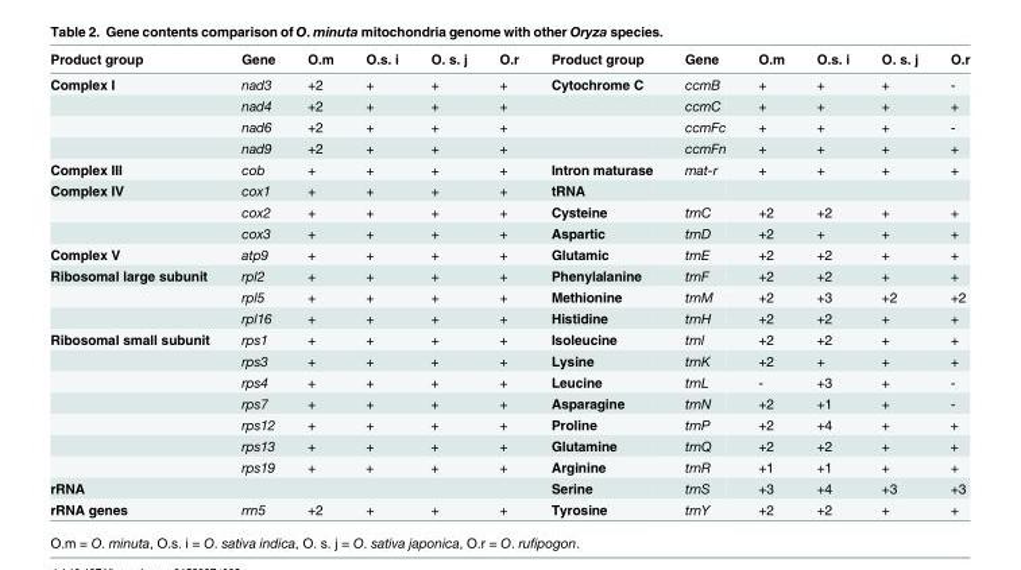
<table><thead><tr><td>Product group</td><td>Gene</td><td>O.m</td><td>O.s. i</td><td>O. s. j</td><td>O.r</td><td>Product group</td><td>Gene</td><td>O.m</td><td>O.s. i</td><td>O. s. j</td><td>O.r</td></tr></thead><tbody><tr><td rowspan="4">Complex I</td><td>nad3</td><td>+2</td><td>+</td><td>+</td><td>+</td><td>Cytochrome C</td><td>ccmB</td><td>+</td><td>+</td><td>+</td><td>-</td></tr><tr><td>nad4</td><td>+2</td><td>+</td><td>+</td><td>+</td><td></td><td>ccmC</td><td>+</td><td>+</td><td>+</td><td>+</td></tr><tr><td>nad6</td><td>+2</td><td>+</td><td>+</td><td>+</td><td></td><td>ccmFc</td><td>+</td><td>+</td><td>+</td><td>-</td></tr><tr><td>nad9</td><td>+2</td><td>+</td><td>+</td><td>+</td><td></td><td>ccmFn</td><td>+</td><td>+</td><td>+</td><td>+</td></tr><tr><td>Complex III</td><td>cob</td><td>+</td><td>+</td><td>+</td><td>+</td><td>Intron maturase</td><td>mat-r</td><td>+</td><td>+</td><td>+</td><td>+</td></tr><tr><td rowspan="3">Complex IV</td><td>cox1</td><td>+</td><td>+</td><td>+</td><td>+</td><td>tRNA</td><td></td><td></td><td></td><td></td><td></td></tr><tr><td>cox2</td><td>+</td><td>+</td><td>+</td><td>+</td><td>Cysteine</td><td>trnC</td><td>+2</td><td>+2</td><td>+</td><td>+</td></tr><tr><td>cox3</td><td>+</td><td>+</td><td>+</td><td>+</td><td>Aspartic</td><td>trnD</td><td>+2</td><td>+</td><td>+</td><td>+</td></tr><tr><td>Complex V</td><td>atp9</td><td>+</td><td>+</td><td>+</td><td>+</td><td>Glutamic</td><td>trnE</td><td>+2</td><td>+2</td><td>+</td><td>+</td></tr><tr><td rowspan="3">Ribosomal large subunit</td><td>rpl2</td><td>+</td><td>+</td><td>+</td><td>+</td><td>Phenylalanine</td><td>trnF</td><td>+2</td><td>+2</td><td>+</td><td>+</td></tr><tr><td>rpl5</td><td>+</td><td>+</td><td>+</td><td>+</td><td>Methionine</td><td>trnM</td><td>+2</td><td>+3</td><td>+2</td><td>+2</td></tr><tr><td>rpl16</td><td>+</td><td>+</td><td>+</td><td>+</td><td>Histidine</td><td>trnH</td><td>+2</td><td>+2</td><td>+</td><td>+</td></tr><tr><td rowspan="7">Ribosomal small subunit</td><td>rps1</td><td>+</td><td>+</td><td>+</td><td>+</td><td>Isoleucine</td><td>trnl</td><td>+2</td><td>+2</td><td>+</td><td>+</td></tr><tr><td>rps3</td><td>+</td><td>+</td><td>+</td><td>+</td><td>Lysine</td><td>trnK</td><td>+2</td><td>+</td><td>+</td><td>+</td></tr><tr><td>rps4</td><td>+</td><td>+</td><td>+</td><td>+</td><td>Leucine</td><td>trnL</td><td>-</td><td>+3</td><td>+</td><td>-</td></tr><tr><td>rps7</td><td>+</td><td>+</td><td>+</td><td>+</td><td>Asparagine</td><td>trnN</td><td>+2</td><td>+1</td><td>+</td><td>-</td></tr><tr><td>rps12</td><td>+</td><td>+</td><td>+</td><td>+</td><td>Proline</td><td>trnP</td><td>+2</td><td>+4</td><td>+</td><td>+</td></tr><tr><td>rps13</td><td>+</td><td>+</td><td>+</td><td>+</td><td>Glutamine</td><td>trnQ</td><td>+2</td><td>+2</td><td>+</td><td>+</td></tr><tr><td>rps19</td><td>+</td><td>+</td><td>+</td><td>+</td><td>Arginine</td><td>trnR</td><td>+1</td><td>+1</td><td>+</td><td>+</td></tr><tr><td>rRNA</td><td></td><td></td><td></td><td></td><td></td><td>Serine</td><td>trnS</td><td>+3</td><td>+4</td><td>+3</td><td>+3</td></tr><tr><td>rRNA genes</td><td>rrn5</td><td>+2</td><td>+</td><td>+</td><td>+</td><td>Tyrosine</td><td>trnY</td><td>+2</td><td>+2</td><td>+</td><td>+</td></tr></tbody></table>